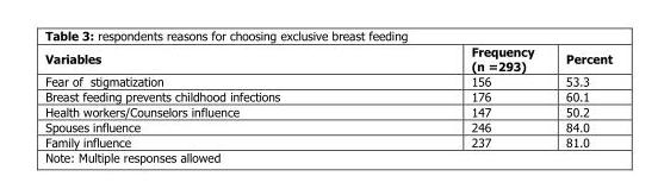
<table><thead><tr><td>Variables</td><td>Frequency (n =293)</td><td>Percent</td></tr></thead><tbody><tr><td>Fear of stigmatization</td><td>156</td><td>53.3</td></tr><tr><td>Breast feeding prevents childhood infections</td><td>176</td><td>60.1</td></tr><tr><td>Health workers/Counselors influence</td><td>147</td><td>50.2</td></tr><tr><td>Spouses influence</td><td>246</td><td>84.0</td></tr><tr><td>Family influence</td><td>237</td><td>81.0</td></tr></tbody></table>